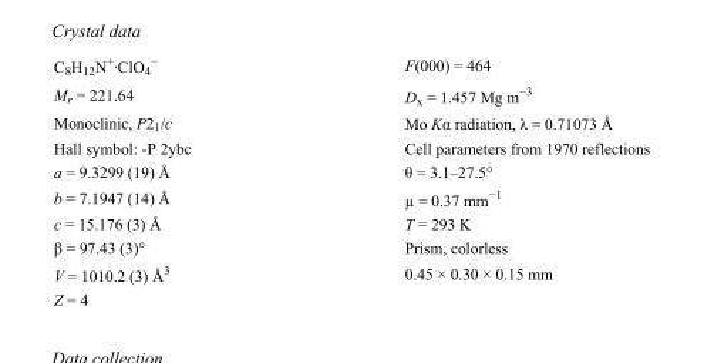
<table><tbody><tr><td>C<sub>8</sub>H<sub>12</sub>N<sup>+</sup>·ClO<sub>4</sub> <sup>−</sup></td><td>F(000) = 464</td></tr><tr><td>M<sub>r</sub> = 221.64</td><td>D<sub>x</sub> = 1.457 Mg m<sup>−3</sup></td></tr><tr><td>Monoclinic, P2<sub>1</sub>/c</td><td>Mo Kα radiation, λ = 0.71073 Å</td></tr><tr><td>Hall symbol: -P 2ybc</td><td>Cell parameters from 1970 reflections</td></tr><tr><td>a = 9.3299 (19) Å</td><td>θ = 3.1–27.5°</td></tr><tr><td>b = 7.1947 (14) Å</td><td>µ = 0.37 mm<sup>−1</sup></td></tr><tr><td>c = 15.176 (3) Å</td><td>T = 293 K</td></tr><tr><td>β = 97.43 (3)°</td><td>Prism, colorless</td></tr><tr><td>V = 1010.2 (3) Å<sup>3</sup></td><td>0.45 × 0.30 × 0.15 mm</td></tr><tr><td>Z = 4</td><td></td></tr></tbody></table>